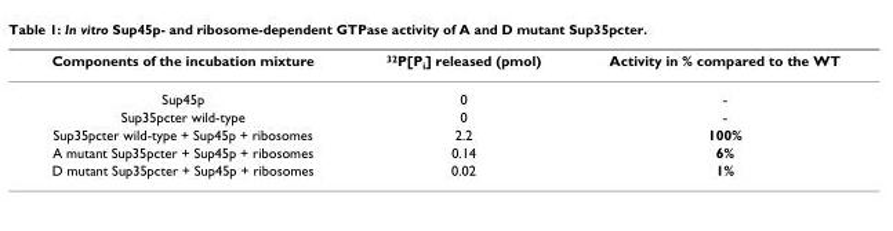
<table><thead><tr><td>Components of the incubation mixture</td><td><sup>32</sup>P[P<sub>i</sub>] released (pmol)</td><td>Activity in % compared to the WT</td></tr></thead><tbody><tr><td>Sup45p</td><td>0</td><td>-</td></tr><tr><td>Sup35pcter wild-type</td><td>0</td><td>-</td></tr><tr><td>Sup35pcter wild-type + Sup45p + ribosomes</td><td>2.2</td><td>100%</td></tr><tr><td>A mutant Sup35pcter + Sup45p + ribosomes</td><td>0.14</td><td>6%</td></tr><tr><td>D mutant Sup35pcter + Sup45p + ribosomes</td><td>0.02</td><td>1%</td></tr></tbody></table>